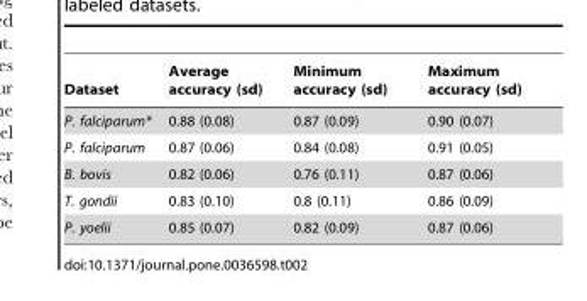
<table><thead><tr><td>Dataset</td><td>Average accuracy (sd)</td><td>Minimum accuracy (sd)</td><td>Maximum accuracy (sd)</td></tr></thead><tbody><tr><td>P. falciparum*</td><td>0.88 (0.08)</td><td>0.87 (0.09)</td><td>0.90 (0.07)</td></tr><tr><td>P. falciparum</td><td>0.87 (0.06)</td><td>0.84 (0.08)</td><td>0.91 (0.05)</td></tr><tr><td>B. bovis</td><td>0.82 (0.06)</td><td>0.76 (0.11)</td><td>0.87 (0.06)</td></tr><tr><td>T. gondii</td><td>0.83 (0.10)</td><td>0.8 (0.11)</td><td>0.86 (0.09)</td></tr><tr><td>P. yoelii</td><td>0.85 (0.07)</td><td>0.82 (0.09)</td><td>0.87 (0.06)</td></tr></tbody></table>